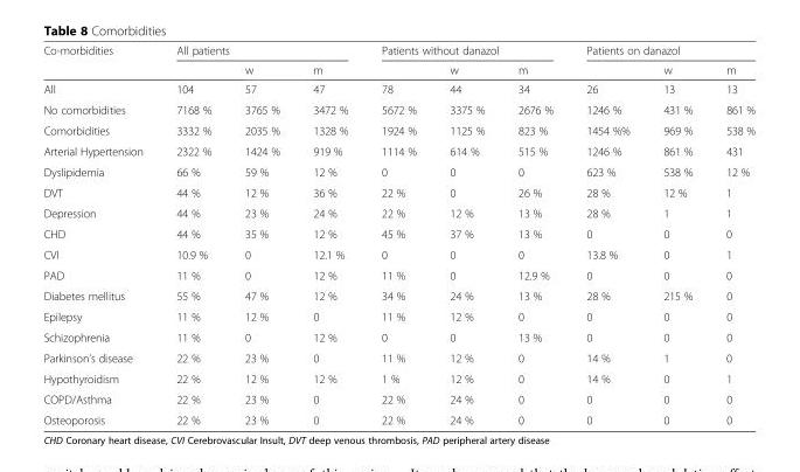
<table><thead><tr><td rowspan="2">Co-morbidities</td><td colspan="3">All patients</td><td colspan="3">Patients without danazol</td><td colspan="3">Patients on danazol</td></tr><tr><td></td><td>w</td><td>m</td><td></td><td>w</td><td>m</td><td></td><td>w</td><td>m</td></tr></thead><tbody><tr><td>All</td><td>104</td><td>57</td><td>47</td><td>78</td><td>44</td><td>34</td><td>26</td><td>13</td><td>13</td></tr><tr><td>No comorbidities</td><td>7168 %</td><td>3765 %</td><td>3472 %</td><td>5672 %</td><td>3375 %</td><td>2676 %</td><td>1246 %</td><td>431 %</td><td>861 %</td></tr><tr><td>Comorbidities</td><td>3332 %</td><td>2035 %</td><td>1328 %</td><td>1924 %</td><td>1125 %</td><td>823 %</td><td>1454 %%</td><td>969 %</td><td>538 %</td></tr><tr><td>Arterial Hypertension</td><td>2322 %</td><td>1424 %</td><td>919 %</td><td>1114 %</td><td>614 %</td><td>515 %</td><td>1246 %</td><td>861 %</td><td>431</td></tr><tr><td>Dyslipidemia</td><td>66 %</td><td>59 %</td><td>12 %</td><td>0</td><td>0</td><td>0</td><td>623 %</td><td>538 %</td><td>12 %</td></tr><tr><td>DVT</td><td>44 %</td><td>12 %</td><td>36 %</td><td>22 %</td><td>0</td><td>26 %</td><td>28 %</td><td>12 %</td><td>1</td></tr><tr><td>Depression</td><td>44 %</td><td>23 %</td><td>24 %</td><td>22 %</td><td>12 %</td><td>13 %</td><td>28 %</td><td>1</td><td>1</td></tr><tr><td>CHD</td><td>44 %</td><td>35 %</td><td>12 %</td><td>45 %</td><td>37 %</td><td>13 %</td><td>0</td><td>0</td><td>0</td></tr><tr><td>CVI</td><td>10.9 %</td><td>0</td><td>12.1 %</td><td>0</td><td>0</td><td>0</td><td>13.8 %</td><td>0</td><td>1</td></tr><tr><td>PAD</td><td>11 %</td><td>0</td><td>12 %</td><td>11 %</td><td>0</td><td>12.9 %</td><td>0</td><td>0</td><td>0</td></tr><tr><td>Diabetes mellitus</td><td>55 %</td><td>47 %</td><td>12 %</td><td>34 %</td><td>24 %</td><td>13 %</td><td>28 %</td><td>215 %</td><td>0</td></tr><tr><td>Epilepsy</td><td>11 %</td><td>12 %</td><td>0</td><td>11 %</td><td>12 %</td><td>0</td><td>0</td><td>0</td><td>0</td></tr><tr><td>Schizophrenia</td><td>11 %</td><td>0</td><td>12 %</td><td>0</td><td>0</td><td>13 %</td><td>0</td><td>0</td><td>0</td></tr><tr><td>Parkinson’s disease</td><td>22 %</td><td>23 %</td><td>0</td><td>11 %</td><td>12 %</td><td>0</td><td>14 %</td><td>1</td><td>0</td></tr><tr><td>Hypothyroidism</td><td>22 %</td><td>12 %</td><td>12 %</td><td>1 %</td><td>12 %</td><td>0</td><td>14 %</td><td>0</td><td>1</td></tr><tr><td>COPD/Asthma</td><td>22 %</td><td>23 %</td><td>0</td><td>22 %</td><td>24 %</td><td>0</td><td>0</td><td>0</td><td>0</td></tr><tr><td>Osteoporosis</td><td>22 %</td><td>23 %</td><td>0</td><td>22 %</td><td>24 %</td><td>0</td><td>0</td><td>0</td><td>0</td></tr></tbody></table>